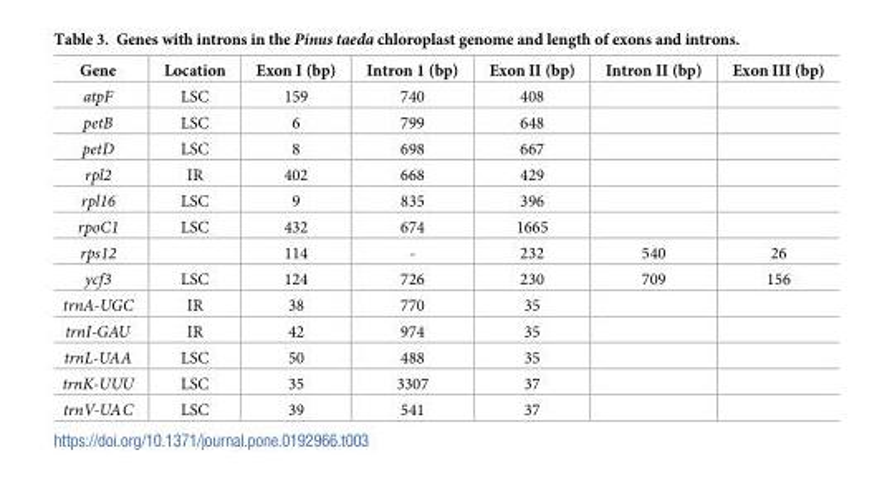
<table><thead><tr><td>Gene</td><td>Location</td><td>Exon I (bp)</td><td>Intron 1 (bp)</td><td>Exon II (bp)</td><td>Intron II (bp)</td><td>Exon III (bp)</td></tr></thead><tbody><tr><td>atpF</td><td>LSC</td><td>159</td><td>740</td><td>408</td><td></td><td></td></tr><tr><td>petB</td><td>LSC</td><td>6</td><td>799</td><td>648</td><td></td><td></td></tr><tr><td>petD</td><td>LSC</td><td>8</td><td>698</td><td>667</td><td></td><td></td></tr><tr><td>rpl2</td><td>IR</td><td>402</td><td>668</td><td>429</td><td></td><td></td></tr><tr><td>rpl16</td><td>LSC</td><td>9</td><td>835</td><td>396</td><td></td><td></td></tr><tr><td>rpoC1</td><td>LSC</td><td>432</td><td>674</td><td>1665</td><td></td><td></td></tr><tr><td>rps12</td><td></td><td>114</td><td>-</td><td>232</td><td>540</td><td>26</td></tr><tr><td>ycf3</td><td>LSC</td><td>124</td><td>726</td><td>230</td><td>709</td><td>156</td></tr><tr><td>trnA-UGC</td><td>IR</td><td>38</td><td>770</td><td>35</td><td></td><td></td></tr><tr><td>trnI-GAU</td><td>IR</td><td>42</td><td>974</td><td>35</td><td></td><td></td></tr><tr><td>trnL-UAA</td><td>LSC</td><td>50</td><td>488</td><td>35</td><td></td><td></td></tr><tr><td>trnK-UUU</td><td>LSC</td><td>35</td><td>3307</td><td>37</td><td></td><td></td></tr><tr><td>trnV-UAC</td><td>LSC</td><td>39</td><td>541</td><td>37</td><td></td><td></td></tr></tbody></table>